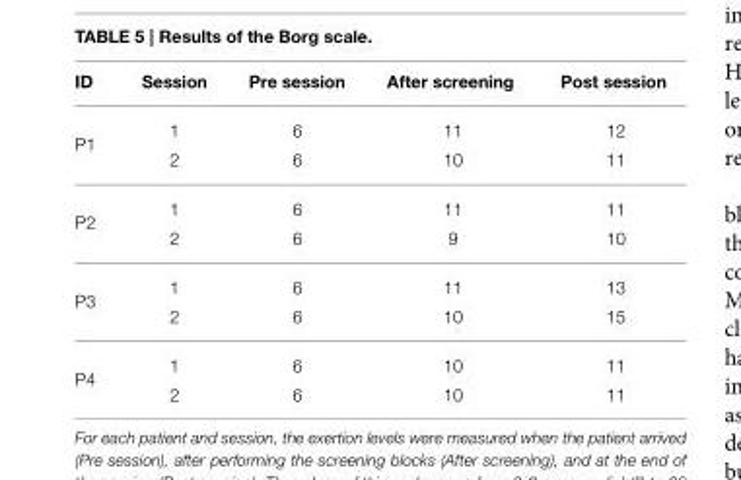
<table><thead><tr><td>ID</td><td>Session</td><td>Pre session</td><td>After screening</td><td>Post session</td></tr></thead><tbody><tr><td rowspan="2">P1</td><td>1</td><td>6</td><td>11</td><td>12</td></tr><tr><td>2</td><td>6</td><td>10</td><td>11</td></tr><tr><td rowspan="2">P2</td><td>1</td><td>6</td><td>11</td><td>11</td></tr><tr><td>2</td><td>6</td><td>9</td><td>10</td></tr><tr><td rowspan="2">P3</td><td>1</td><td>6</td><td>11</td><td>13</td></tr><tr><td>2</td><td>6</td><td>10</td><td>15</td></tr><tr><td rowspan="2">P4</td><td>1</td><td>6</td><td>10</td><td>11</td></tr><tr><td>2</td><td>6</td><td>10</td><td>11</td></tr></tbody></table>